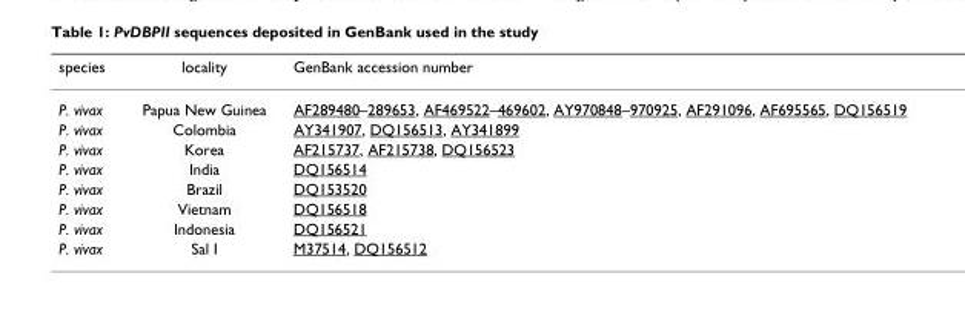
<table><thead><tr><td>species</td><td>locality</td><td>GenBank accession number</td></tr></thead><tbody><tr><td>P. vivax</td><td>Papua New Guinea</td><td>AF289480–289653, AF469522–469602, AY970848–970925, AF291096, AF695565, DQ156519</td></tr><tr><td>P. vivax</td><td>Colombia</td><td>AY341907, DQ156513, AY341899</td></tr><tr><td>P. vivax</td><td>Korea</td><td>AF215737, AF215738, DQ156523</td></tr><tr><td>P. vivax</td><td>India</td><td>DQ156514</td></tr><tr><td>P. vivax</td><td>Brazil</td><td>DQ153520</td></tr><tr><td>P. vivax</td><td>Vietnam</td><td>DQ156518</td></tr><tr><td>P. vivax</td><td>Indonesia</td><td>DQ156521</td></tr><tr><td>P. vivax</td><td>Sal I</td><td>M37514, DQ156512</td></tr></tbody></table>